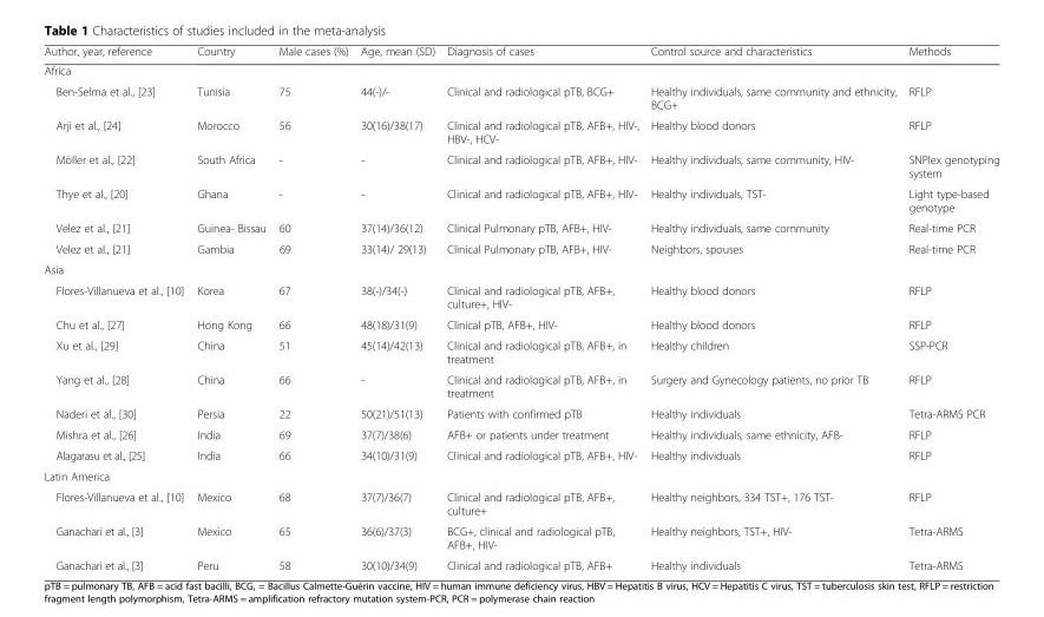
<table><thead><tr><td>Author, year, reference</td><td>Country</td><td>Male cases (%)</td><td>Age, mean (SD)</td><td>Diagnosis of cases</td><td>Control source and characteristics</td><td>Methods</td></tr></thead><tbody><tr><td colspan="7">Africa</td></tr><tr><td>Ben-Selma et al., [23]</td><td>Tunisia</td><td>75</td><td>44(-)/-</td><td>Clinical and radiological pTB, BCG+</td><td>Healthy individuals, same community and ethnicity, BCG+</td><td>RFLP</td></tr><tr><td>Arji et al., [24]</td><td>Morocco</td><td>56</td><td>30(16)/38(17)</td><td>Clinical and radiological pTB, AFB+, HIV-, HBV-, HCV-</td><td>Healthy blood donors</td><td>RFLP</td></tr><tr><td>Möller et al., [22]</td><td>South Africa</td><td>-</td><td>-</td><td>Clinical and radiological pTB, AFB+, HIV-</td><td>Healthy individuals, same community, HIV-</td><td>SNPlex genotyping system</td></tr><tr><td>Thye et al., [20]</td><td>Ghana</td><td>-</td><td>-</td><td>Clinical and radiological pTB, AFB+, HIV-</td><td>Healthy individuals, TST-</td><td>Light type-based genotype</td></tr><tr><td>Velez et al., [21]</td><td>Guinea- Bissau</td><td>60</td><td>37(14)/36(12)</td><td>Clinical Pulmonary pTB, AFB+, HIV-</td><td>Healthy individuals, same community</td><td>Real-time PCR</td></tr><tr><td>Velez et al., [21]</td><td>Gambia</td><td>69</td><td>33(14)/ 29(13)</td><td>Clinical Pulmonary pTB, AFB+, HIV-</td><td>Neighbors, spouses</td><td>Real-time PCR</td></tr><tr><td colspan="7">Asia</td></tr><tr><td>Flores-Villanueva et al., [10]</td><td>Korea</td><td>67</td><td>38(-)/34(-)</td><td>Clinical and radiological pTB, AFB+, culture+, HIV-</td><td>Healthy blood donors</td><td>RFLP</td></tr><tr><td>Chu et al., [27]</td><td>Hong Kong</td><td>66</td><td>48(18)/31(9)</td><td>Clinical pTB, AFB+, HIV-</td><td>Healthy blood donors</td><td>RFLP</td></tr><tr><td>Xu et al., [29]</td><td>China</td><td>51</td><td>45(14)/42(13)</td><td>Clinical and radiological pTB, AFB+, in treatment</td><td>Healthy children</td><td>SSP-PCR</td></tr><tr><td>Yang et al., [28]</td><td>China</td><td>66</td><td>-</td><td>Clinical and radiological pTB, AFB+, in treatment</td><td>Surgery and Gynecology patients, no prior TB</td><td>RFLP</td></tr><tr><td>Naderi et al., [30]</td><td>Persia</td><td>22</td><td>50(21)/51(13)</td><td>Patients with confirmed pTB</td><td>Healthy individuals</td><td>Tetra-ARMS PCR</td></tr><tr><td>Mishra et al., [26]</td><td>India</td><td>69</td><td>37(7)/38(6)</td><td>AFB+ or patients under treatment</td><td>Healthy individuals, same ethnicity, AFB-</td><td>RFLP</td></tr><tr><td>Alagarasu et al., [25]</td><td>India</td><td>66</td><td>34(10)/31(9)</td><td>Clinical and radiological pTB, AFB+, HIV-</td><td>Healthy individuals</td><td>RFLP</td></tr><tr><td colspan="7">Latin America</td></tr><tr><td>Flores-Villanueva et al., [10]</td><td>Mexico</td><td>68</td><td>37(7)/36(7)</td><td>Clinical and radiological pTB, AFB+, culture+</td><td>Healthy neighbors, 334 TST+, 176 TST-</td><td>RFLP</td></tr><tr><td>Ganachari et al., [3]</td><td>Mexico</td><td>65</td><td>36(6)/37(3)</td><td>BCG+, clinical and radiological pTB, AFB+, HIV-</td><td>Healthy neighbors, TST+, HIV-</td><td>Tetra-ARMS</td></tr><tr><td>Ganachari et al., [3]</td><td>Peru</td><td>58</td><td>30(10)/34(9)</td><td>Clinical and radiological pTB, AFB+</td><td>Healthy individuals</td><td>Tetra-ARMS</td></tr></tbody></table>